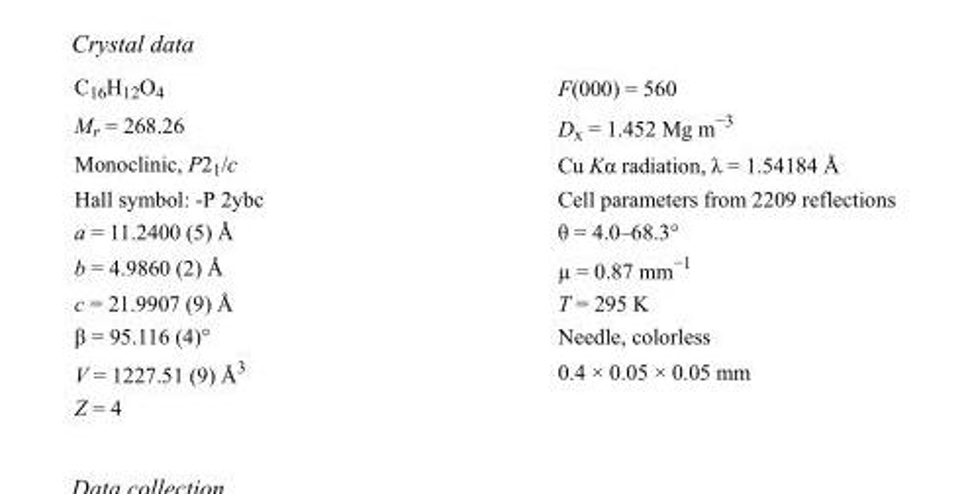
<table><tbody><tr><td>C<sub>16</sub>H<sub>12</sub>O<sub>4</sub></td><td>F(000) = 560</td></tr><tr><td>M<sub>r</sub> = 268.26</td><td>D<sub>x</sub> = 1.452 Mg m<sup>−3</sup></td></tr><tr><td>Monoclinic, P2<sub>1</sub>/c</td><td>Cu Kα radiation, λ = 1.54184 Å</td></tr><tr><td>Hall symbol: -P 2ybc</td><td>Cell parameters from 2209 reflections</td></tr><tr><td>a = 11.2400 (5) Å</td><td>θ = 4.0–68.3°</td></tr><tr><td>b = 4.9860 (2) Å</td><td>µ = 0.87 mm<sup>−1</sup></td></tr><tr><td>c = 21.9907 (9) Å</td><td>T = 295 K</td></tr><tr><td>β = 95.116 (4)°</td><td>Needle, colorless</td></tr><tr><td>V = 1227.51 (9) Å<sup>3</sup></td><td>0.4 × 0.05 × 0.05 mm</td></tr><tr><td>Z = 4</td><td></td></tr></tbody></table>